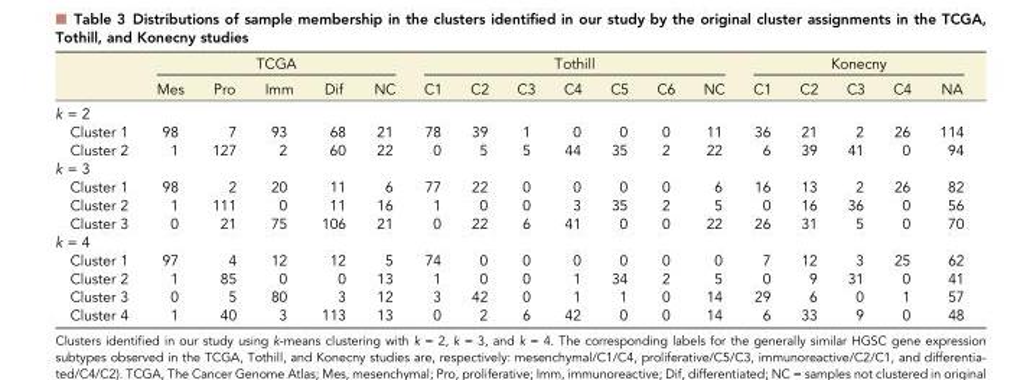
<table><thead><tr><td rowspan="2"></td><td colspan="5">TCGA</td><td colspan="7">Tothill</td><td colspan="5">Konecny</td></tr><tr><td>Mes</td><td>Pro</td><td>Imm</td><td>Dif</td><td>NC</td><td>C1</td><td>C2</td><td>C3</td><td>C4</td><td>C5</td><td>C6</td><td>NC</td><td>C1</td><td>C2</td><td>C3</td><td>C4</td><td>NA</td></tr></thead><tbody><tr><td colspan="18">k = 2</td></tr><tr><td>Cluster 1</td><td>98</td><td>7</td><td>93</td><td>68</td><td>21</td><td>78</td><td>39</td><td>1</td><td>0</td><td>0</td><td>0</td><td>11</td><td>36</td><td>21</td><td>2</td><td>26</td><td>114</td></tr><tr><td>Cluster 2</td><td>1</td><td>127</td><td>2</td><td>60</td><td>22</td><td>0</td><td>5</td><td>5</td><td>44</td><td>35</td><td>2</td><td>22</td><td>6</td><td>39</td><td>41</td><td>0</td><td>94</td></tr><tr><td colspan="18">k = 3</td></tr><tr><td>Cluster 1</td><td>98</td><td>2</td><td>20</td><td>11</td><td>6</td><td>77</td><td>22</td><td>0</td><td>0</td><td>0</td><td>0</td><td>6</td><td>16</td><td>13</td><td>2</td><td>26</td><td>82</td></tr><tr><td>Cluster 2</td><td>1</td><td>111</td><td>0</td><td>11</td><td>16</td><td>1</td><td>0</td><td>0</td><td>3</td><td>35</td><td>2</td><td>5</td><td>0</td><td>16</td><td>36</td><td>0</td><td>56</td></tr><tr><td>Cluster 3</td><td>0</td><td>21</td><td>75</td><td>106</td><td>21</td><td>0</td><td>22</td><td>6</td><td>41</td><td>0</td><td>0</td><td>22</td><td>26</td><td>31</td><td>5</td><td>0</td><td>70</td></tr><tr><td colspan="18">k = 4</td></tr><tr><td>Cluster 1</td><td>97</td><td>4</td><td>12</td><td>12</td><td>5</td><td>74</td><td>0</td><td>0</td><td>0</td><td>0</td><td>0</td><td>0</td><td>7</td><td>12</td><td>3</td><td>25</td><td>62</td></tr><tr><td>Cluster 2</td><td>1</td><td>85</td><td>0</td><td>0</td><td>13</td><td>1</td><td>0</td><td>0</td><td>1</td><td>34</td><td>2</td><td>5</td><td>0</td><td>9</td><td>31</td><td>0</td><td>41</td></tr><tr><td>Cluster 3</td><td>0</td><td>5</td><td>80</td><td>3</td><td>12</td><td>3</td><td>42</td><td>0</td><td>1</td><td>1</td><td>0</td><td>14</td><td>29</td><td>6</td><td>0</td><td>1</td><td>57</td></tr><tr><td>Cluster 4</td><td>1</td><td>40</td><td>3</td><td>113</td><td>13</td><td>0</td><td>2</td><td>6</td><td>42</td><td>0</td><td>0</td><td>14</td><td>6</td><td>33</td><td>9</td><td>0</td><td>48</td></tr></tbody></table>